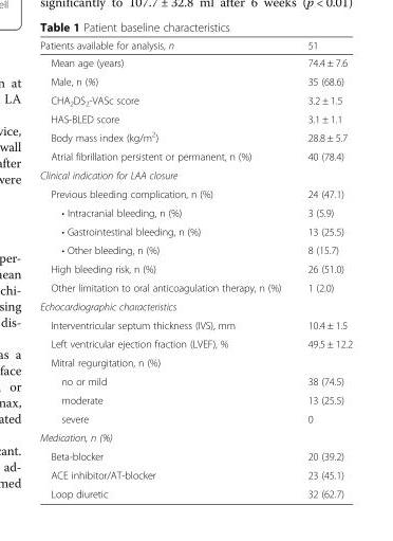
<table><thead><tr><td>Patients available for analysis, n</td><td>51</td></tr></thead><tbody><tr><td>Mean age (years)</td><td>74.4 ± 7.6</td></tr><tr><td>Male, n (%)</td><td>35 (68.6)</td></tr><tr><td>CHA<sub>2</sub>DS<sub>2</sub>-VASc score</td><td>3.2 ± 1.5</td></tr><tr><td>HAS-BLED score</td><td>3.1 ± 1.1</td></tr><tr><td>Body mass index (kg/m<sup>2</sup>)</td><td>28.8 ± 5.7</td></tr><tr><td>Atrial fibrillation persistent or permanent, n (%)</td><td>40 (78.4)</td></tr><tr><td colspan="2">Clinical indication for LAA closure</td></tr><tr><td>Previous bleeding complication, n (%)</td><td>24 (47.1)</td></tr><tr><td>• Intracranial bleeding, n (%)</td><td>3 (5.9)</td></tr><tr><td>• Gastrointestinal bleeding, n (%)</td><td>13 (25.5)</td></tr><tr><td>• Other bleeding, n (%)</td><td>8 (15.7)</td></tr><tr><td>High bleeding risk, n (%)</td><td>26 (51.0)</td></tr><tr><td>Other limitation to oral anticoagulation therapy, n (%)</td><td>1 (2.0)</td></tr><tr><td colspan="2">Echocardiographic characteristics</td></tr><tr><td>Interventricular septum thickness (IVS), mm</td><td>10.4 ± 1.5</td></tr><tr><td>Left ventricular ejection fraction (LVEF), %</td><td>49.5 ± 12.2</td></tr><tr><td colspan="2">Mitral regurgitation, n (%)</td></tr><tr><td>no or mild</td><td>38 (74.5)</td></tr><tr><td>moderate</td><td>13 (25.5)</td></tr><tr><td>severe</td><td>0</td></tr><tr><td colspan="2">Medication, n (%)</td></tr><tr><td>Beta-blocker</td><td>20 (39.2)</td></tr><tr><td>ACE inhibitor/AT-blocker</td><td>23 (45.1)</td></tr><tr><td>Loop diuretic</td><td>32 (62.7)</td></tr></tbody></table>